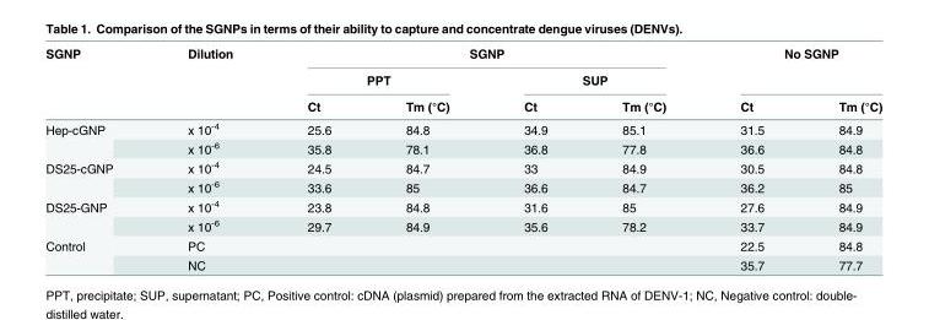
<table><thead><tr><td rowspan="3">SGNP</td><td rowspan="3">Dilution</td><td colspan="4">SGNP</td><td rowspan="2" colspan="2">No SGNP</td></tr><tr><td colspan="2">PPT</td><td colspan="2">SUP</td></tr><tr><td>Ct</td><td>Tm (°C)</td><td>Ct</td><td>Tm (°C)</td><td>Ct</td><td>Tm (°C)</td></tr></thead><tbody><tr><td rowspan="2">Hep-cGNP</td><td>x 10<sup>-4</sup></td><td>25.6</td><td>84.8</td><td>34.9</td><td>85.1</td><td>31.5</td><td>84.9</td></tr><tr><td>x 10<sup>-6</sup></td><td>35.8</td><td>78.1</td><td>36.8</td><td>77.8</td><td>36.6</td><td>84.8</td></tr><tr><td rowspan="2">DS25-cGNP</td><td>x 10<sup>-4</sup></td><td>24.5</td><td>84.7</td><td>33</td><td>84.9</td><td>30.5</td><td>84.8</td></tr><tr><td>x 10<sup>-6</sup></td><td>33.6</td><td>85</td><td>36.6</td><td>84.7</td><td>36.2</td><td>85</td></tr><tr><td rowspan="2">DS25-GNP</td><td>x 10<sup>-4</sup></td><td>23.8</td><td>84.8</td><td>31.6</td><td>85</td><td>27.6</td><td>84.9</td></tr><tr><td>x 10<sup>-6</sup></td><td>29.7</td><td>84.9</td><td>35.6</td><td>78.2</td><td>33.7</td><td>84.9</td></tr><tr><td rowspan="2">Control</td><td>PC</td><td colspan="4"></td><td>22.5</td><td>84.8</td></tr><tr><td>NC</td><td colspan="4"></td><td>35.7</td><td>77.7</td></tr></tbody></table>